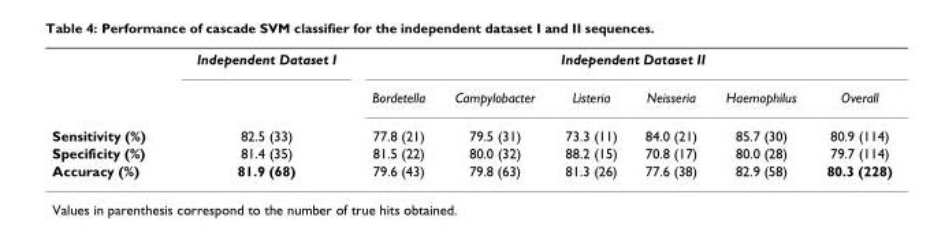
<table><thead><tr><td rowspan="2"></td><td rowspan="2">Independent Dataset I</td><td colspan="6">Independent Dataset II</td></tr><tr><td>Bordetella</td><td>Campylobacter</td><td>Listeria</td><td>Neisseria</td><td>Haemophilus</td><td>Overall</td></tr></thead><tbody><tr><td>Sensitivity (%)</td><td>82.5 (33)</td><td>77.8 (21)</td><td>79.5 (31)</td><td>73.3 (11)</td><td>84.0 (21)</td><td>85.7 (30)</td><td>80.9 (114)</td></tr><tr><td>Specificity (%)</td><td>81.4 (35)</td><td>81.5 (22)</td><td>80.0 (32)</td><td>88.2 (15)</td><td>70.8 (17)</td><td>80.0 (28)</td><td>79.7 (114)</td></tr><tr><td>Accuracy (%)</td><td>81.9 (68)</td><td>79.6 (43)</td><td>79.8 (63)</td><td>81.3 (26)</td><td>77.6 (38)</td><td>82.9 (58)</td><td>80.3 (228)</td></tr></tbody></table>